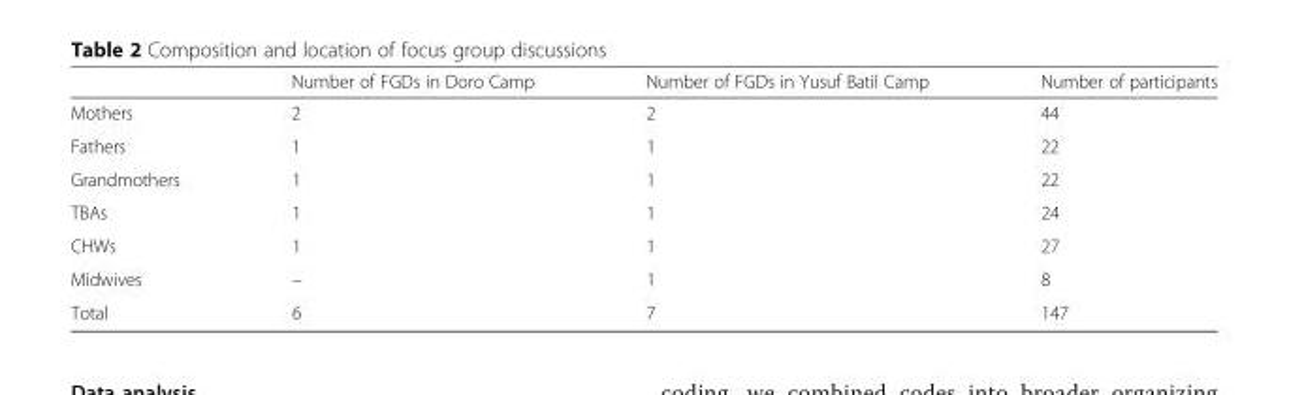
<table><thead><tr><td></td><td>Number of FGDs in Doro Camp</td><td>Number of FGDs in Yusuf Batil Camp</td><td>Number of participants</td></tr></thead><tbody><tr><td>Mothers</td><td>2</td><td>2</td><td>44</td></tr><tr><td>Fathers</td><td>1</td><td>1</td><td>22</td></tr><tr><td>Grandmothers</td><td>1</td><td>1</td><td>22</td></tr><tr><td>TBAs</td><td>1</td><td>1</td><td>24</td></tr><tr><td>CHWs</td><td>1</td><td>1</td><td>27</td></tr><tr><td>Midwives</td><td>–</td><td>1</td><td>8</td></tr><tr><td>Total</td><td>6</td><td>7</td><td>147</td></tr></tbody></table>